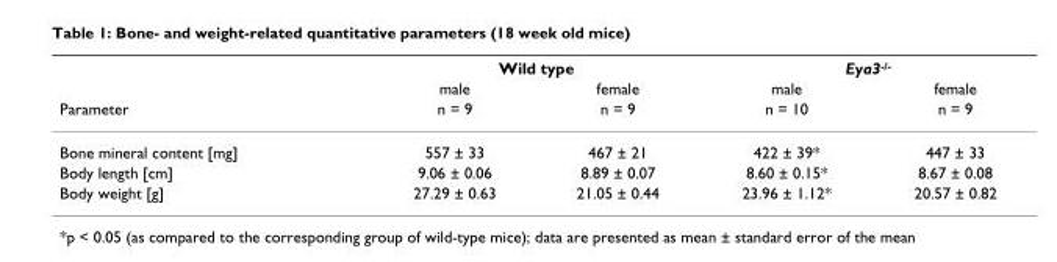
<table><thead><tr><td rowspan="3">Parameter</td><td colspan="2">Wild type</td><td colspan="2">Eya3<sup>-/-</sup></td></tr><tr><td rowspan="2">male n = 9</td><td rowspan="2">female n = 9</td><td rowspan="2">male n = 10</td><td rowspan="2">female n = 9</td></tr><tr></tr></thead><tbody><tr><td>Bone mineral content [mg]</td><td>557 ± 33</td><td>467 ± 21</td><td>422 ± 39*</td><td>447 ± 33</td></tr><tr><td>Body length [cm]</td><td>9.06 ± 0.06</td><td>8.89 ± 0.07</td><td>8.60 ± 0.15*</td><td>8.67 ± 0.08</td></tr><tr><td>Body weight [g]</td><td>27.29 ± 0.63</td><td>21.05 ± 0.44</td><td>23.96 ± 1.12*</td><td>20.57 ± 0.82</td></tr></tbody></table>